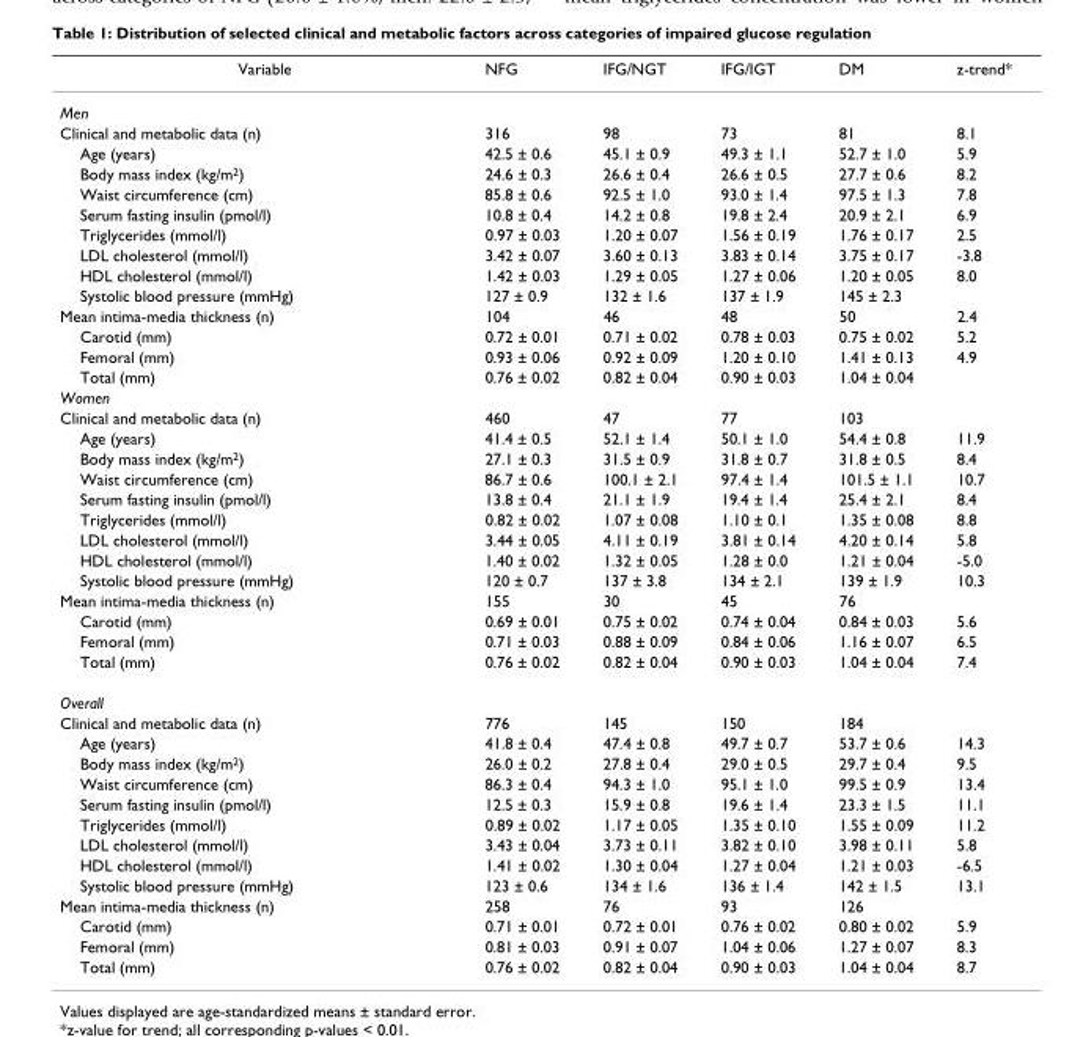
<table><thead><tr><td>Variable</td><td>NFG</td><td>IFG/NGT</td><td>IFG/IGT</td><td>DM</td><td>z-trend*</td></tr></thead><tbody><tr><td colspan="6">Men</td></tr><tr><td>Clinical and metabolic data (n)</td><td>316</td><td>98</td><td>73</td><td>81</td><td>8.1</td></tr><tr><td>Age (years)</td><td>42.5 ± 0.6</td><td>45.1 ± 0.9</td><td>49.3 ± 1.1</td><td>52.7 ± 1.0</td><td>5.9</td></tr><tr><td>Body mass index (kg/m<sup>2</sup>)</td><td>24.6 ± 0.3</td><td>26.6 ± 0.4</td><td>26.6 ± 0.5</td><td>27.7 ± 0.6</td><td>8.2</td></tr><tr><td>Waist circumference (cm)</td><td>85.8 ± 0.6</td><td>92.5 ± 1.0</td><td>93.0 ± 1.4</td><td>97.5 ± 1.3</td><td>7.8</td></tr><tr><td>Serum fasting insulin (pmol/l)</td><td>10.8 ± 0.4</td><td>14.2 ± 0.8</td><td>19.8 ± 2.4</td><td>20.9 ± 2.1</td><td>6.9</td></tr><tr><td>Triglycerides (mmol/l)</td><td>0.97 ± 0.03</td><td>1.20 ± 0.07</td><td>1.56 ± 0.19</td><td>1.76 ± 0.17</td><td>2.5</td></tr><tr><td>LDL cholesterol (mmol/l)</td><td>3.42 ± 0.07</td><td>3.60 ± 0.13</td><td>3.83 ± 0.14</td><td>3.75 ± 0.17</td><td>-3.8</td></tr><tr><td>HDL cholesterol (mmol/l)</td><td>1.42 ± 0.03</td><td>1.29 ± 0.05</td><td>1.27 ± 0.06</td><td>1.20 ± 0.05</td><td>8.0</td></tr><tr><td>Systolic blood pressure (mmHg)</td><td>127 ± 0.9</td><td>132 ± 1.6</td><td>137 ± 1.9</td><td>145 ± 2.3</td><td></td></tr><tr><td>Mean intima-media thickness (n)</td><td>104</td><td>46</td><td>48</td><td>50</td><td>2.4</td></tr><tr><td>Carotid (mm)</td><td>0.72 ± 0.01</td><td>0.71 ± 0.02</td><td>0.78 ± 0.03</td><td>0.75 ± 0.02</td><td>5.2</td></tr><tr><td>Femoral (mm)</td><td>0.93 ± 0.06</td><td>0.92 ± 0.09</td><td>1.20 ± 0.10</td><td>1.41 ± 0.13</td><td>4.9</td></tr><tr><td>Total (mm)</td><td>0.76 ± 0.02</td><td>0.82 ± 0.04</td><td>0.90 ± 0.03</td><td>1.04 ± 0.04</td><td></td></tr><tr><td colspan="6">Women</td></tr><tr><td>Clinical and metabolic data (n)</td><td>460</td><td>47</td><td>77</td><td>103</td><td></td></tr><tr><td>Age (years)</td><td>41.4 ± 0.5</td><td>52.1 ± 1.4</td><td>50.1 ± 1.0</td><td>54.4 ± 0.8</td><td>11.9</td></tr><tr><td>Body mass index (kg/m<sup>2</sup>)</td><td>27.1 ± 0.3</td><td>31.5 ± 0.9</td><td>31.8 ± 0.7</td><td>31.8 ± 0.5</td><td>8.4</td></tr><tr><td>Waist circumference (cm)</td><td>86.7 ± 0.6</td><td>100.1 ± 2.1</td><td>97.4 ± 1.4</td><td>101.5 ± 1.1</td><td>10.7</td></tr><tr><td>Serum fasting insulin (pmol/l)</td><td>13.8 ± 0.4</td><td>21.1 ± 1.9</td><td>19.4 ± 1.4</td><td>25.4 ± 2.1</td><td>8.4</td></tr><tr><td>Triglycerides (mmol/l)</td><td>0.82 ± 0.02</td><td>1.07 ± 0.08</td><td>1.10 ± 0.1</td><td>1.35 ± 0.08</td><td>8.8</td></tr><tr><td>LDL cholesterol (mmol/l)</td><td>3.44 ± 0.05</td><td>4.11 ± 0.19</td><td>3.81 ± 0.14</td><td>4.20 ± 0.14</td><td>5.8</td></tr><tr><td>HDL cholesterol (mmol/l)</td><td>1.40 ± 0.02</td><td>1.32 ± 0.05</td><td>1.28 ± 0.0</td><td>1.21 ± 0.04</td><td>-5.0</td></tr><tr><td>Systolic blood pressure (mmHg)</td><td>120 ± 0.7</td><td>137 ± 3.8</td><td>134 ± 2.1</td><td>139 ± 1.9</td><td>10.3</td></tr><tr><td>Mean intima-media thickness (n)</td><td>155</td><td>30</td><td>45</td><td>76</td><td></td></tr><tr><td>Carotid (mm)</td><td>0.69 ± 0.01</td><td>0.75 ± 0.02</td><td>0.74 ± 0.04</td><td>0.84 ± 0.03</td><td>5.6</td></tr><tr><td>Femoral (mm)</td><td>0.71 ± 0.03</td><td>0.88 ± 0.09</td><td>0.84 ± 0.06</td><td>1.16 ± 0.07</td><td>6.5</td></tr><tr><td>Total (mm)</td><td>0.76 ± 0.02</td><td>0.82 ± 0.04</td><td>0.90 ± 0.03</td><td>1.04 ± 0.04</td><td>7.4</td></tr><tr><td colspan="6">Overall</td></tr><tr><td>Clinical and metabolic data (n)</td><td>776</td><td>145</td><td>150</td><td>184</td><td></td></tr><tr><td>Age (years)</td><td>41.8 ± 0.4</td><td>47.4 ± 0.8</td><td>49.7 ± 0.7</td><td>53.7 ± 0.6</td><td>14.3</td></tr><tr><td>Body mass index (kg/m<sup>2</sup>)</td><td>26.0 ± 0.2</td><td>27.8 ± 0.4</td><td>29.0 ± 0.5</td><td>29.7 ± 0.4</td><td>9.5</td></tr><tr><td>Waist circumference (cm)</td><td>86.3 ± 0.4</td><td>94.3 ± 1.0</td><td>95.1 ± 1.0</td><td>99.5 ± 0.9</td><td>13.4</td></tr><tr><td>Serum fasting insulin (pmol/l)</td><td>12.5 ± 0.3</td><td>15.9 ± 0.8</td><td>19.6 ± 1.4</td><td>23.3 ± 1.5</td><td>11.1</td></tr><tr><td>Triglycerides (mmol/l)</td><td>0.89 ± 0.02</td><td>1.17 ± 0.05</td><td>1.35 ± 0.10</td><td>1.55 ± 0.09</td><td>11.2</td></tr><tr><td>LDL cholesterol (mmol/l)</td><td>3.43 ± 0.04</td><td>3.73 ± 0.11</td><td>3.82 ± 0.10</td><td>3.98 ± 0.11</td><td>5.8</td></tr><tr><td>HDL cholesterol (mmol/l)</td><td>1.41 ± 0.02</td><td>1.30 ± 0.04</td><td>1.27 ± 0.04</td><td>1.21 ± 0.03</td><td>-6.5</td></tr><tr><td>Systolic blood pressure (mmHg)</td><td>123 ± 0.6</td><td>134 ± 1.6</td><td>136 ± 1.4</td><td>142 ± 1.5</td><td>13.1</td></tr><tr><td>Mean intima-media thickness (n)</td><td>258</td><td>76</td><td>93</td><td>126</td><td></td></tr><tr><td>Carotid (mm)</td><td>0.71 ± 0.01</td><td>0.72 ± 0.01</td><td>0.76 ± 0.02</td><td>0.80 ± 0.02</td><td>5.9</td></tr><tr><td>Femoral (mm)</td><td>0.81 ± 0.03</td><td>0.91 ± 0.07</td><td>1.04 ± 0.06</td><td>1.27 ± 0.07</td><td>8.3</td></tr><tr><td>Total (mm)</td><td>0.76 ± 0.02</td><td>0.82 ± 0.04</td><td>0.90 ± 0.03</td><td>1.04 ± 0.04</td><td>8.7</td></tr></tbody></table>